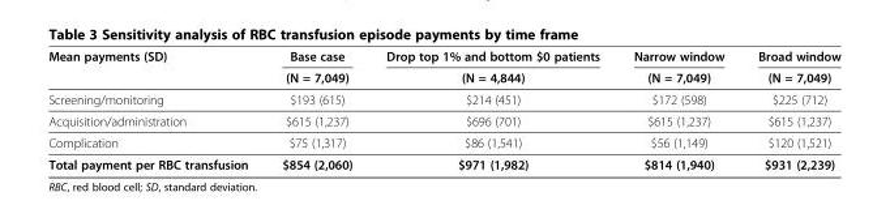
<table><thead><tr><td rowspan="2">Mean payments (SD)</td><td rowspan="2">Base case (N = 7,049)</td><td rowspan="2">Drop top 1% and bottom $0 patients (N = 4,844)</td><td rowspan="2">Narrow window (N = 7,049)</td><td rowspan="2">Broad window (N = 7,049)</td></tr><tr></tr></thead><tbody><tr><td>Screening/monitoring</td><td>$193 (615)</td><td>$214 (451)</td><td>$172 (598)</td><td>$225 (712)</td></tr><tr><td>Acquisition/administration</td><td>$615 (1,237)</td><td>$696 (701)</td><td>$615 (1,237)</td><td>$615 (1,237)</td></tr><tr><td>Complication</td><td>$75 (1,317)</td><td>$86 (1,541)</td><td>$56 (1,149)</td><td>$120 (1,521)</td></tr><tr><td>Total payment per RBC transfusion</td><td>$854 (2,060)</td><td>$971 (1,982)</td><td>$814 (1,940)</td><td>$931 (2,239)</td></tr></tbody></table>